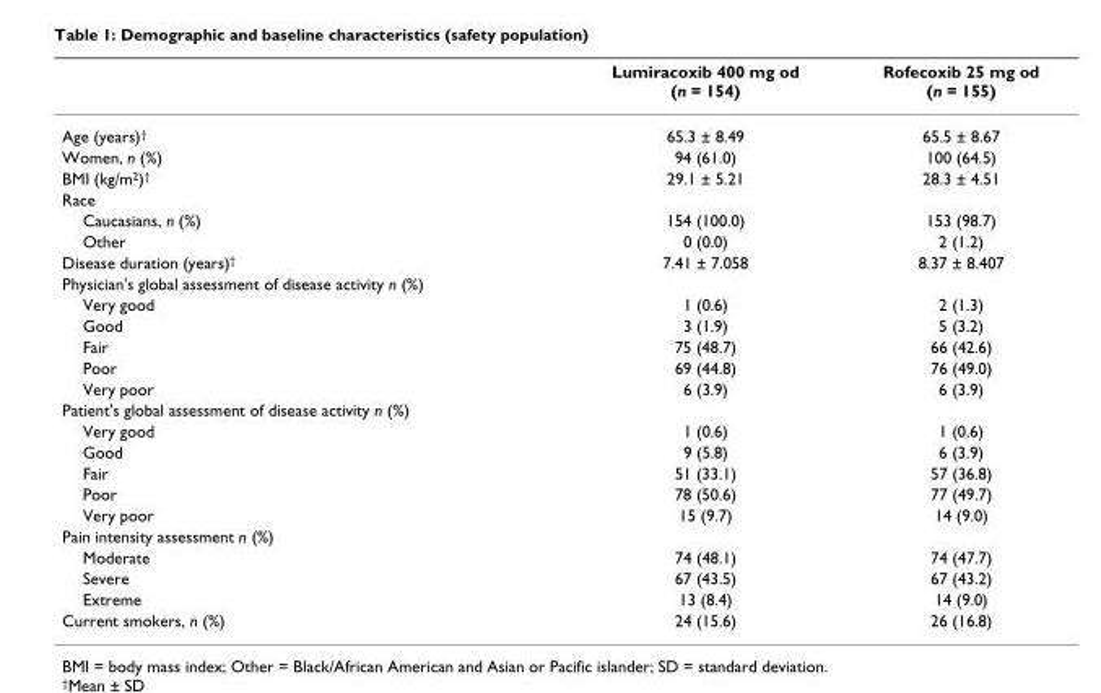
<table><thead><tr><td></td><td>Lumiracoxib 400 mg od (n = 154)</td><td>Rofecoxib 25 mg od (n = 155)</td></tr></thead><tbody><tr><td>Age (years)<sup>†</sup></td><td>65.3 ± 8.49</td><td>65.5 ± 8.67</td></tr><tr><td>Women, n (%)</td><td>94 (61.0)</td><td>100 (64.5)</td></tr><tr><td>BMI (kg/m<sup>2</sup>)<sup>†</sup></td><td>29.1 ± 5.21</td><td>28.3 ± 4.51</td></tr><tr><td colspan="3">Race</td></tr><tr><td>Caucasians, n (%)</td><td>154 (100.0)</td><td>153 (98.7)</td></tr><tr><td>Other</td><td>0 (0.0)</td><td>2 (1.2)</td></tr><tr><td>Disease duration (years)<sup>†</sup></td><td>7.41 ± 7.058</td><td>8.37 ± 8.407</td></tr><tr><td colspan="3">Physician&#x27;s global assessment of disease activity n (%)</td></tr><tr><td>Very good</td><td>1 (0.6)</td><td>2 (1.3)</td></tr><tr><td>Good</td><td>3 (1.9)</td><td>5 (3.2)</td></tr><tr><td>Fair</td><td>75 (48.7)</td><td>66 (42.6)</td></tr><tr><td>Poor</td><td>69 (44.8)</td><td>76 (49.0)</td></tr><tr><td>Very poor</td><td>6 (3.9)</td><td>6 (3.9)</td></tr><tr><td colspan="3">Patient&#x27;s global assessment of disease activity n (%)</td></tr><tr><td>Very good</td><td>1 (0.6)</td><td>1 (0.6)</td></tr><tr><td>Good</td><td>9 (5.8)</td><td>6 (3.9)</td></tr><tr><td>Fair</td><td>51 (33.1)</td><td>57 (36.8)</td></tr><tr><td>Poor</td><td>78 (50.6)</td><td>77 (49.7)</td></tr><tr><td>Very poor</td><td>15 (9.7)</td><td>14 (9.0)</td></tr><tr><td colspan="3">Pain intensity assessment n (%)</td></tr><tr><td>Moderate</td><td>74 (48.1)</td><td>74 (47.7)</td></tr><tr><td>Severe</td><td>67 (43.5)</td><td>67 (43.2)</td></tr><tr><td>Extreme</td><td>13 (8.4)</td><td>14 (9.0)</td></tr><tr><td>Current smokers, n (%)</td><td>24 (15.6)</td><td>26 (16.8)</td></tr></tbody></table>